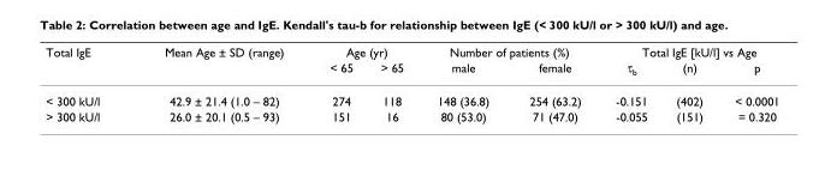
<table><thead><tr><td rowspan="2">Total IgE</td><td rowspan="2">Mean Age ± SD (range)</td><td colspan="2">Age (yr)</td><td colspan="2">Number of patients (%)</td><td colspan="3">Total IgE [kU/l] vs Age</td></tr><tr><td>&lt; 65</td><td>&gt; 65</td><td>male</td><td>female</td><td>τ<sub>b</sub></td><td>(n)</td><td>p</td></tr></thead><tbody><tr><td>&lt; 300 kU/l</td><td>42.9 ± 21.4 (1.0 – 82)</td><td>274</td><td>118</td><td>148 (36.8)</td><td>254 (63.2)</td><td>-0.151</td><td>(402)</td><td>&lt; 0.0001</td></tr><tr><td>&gt; 300 kU/l</td><td>26.0 ± 20.1 (0.5 – 93)</td><td>151</td><td>16</td><td>80 (53.0)</td><td>71 (47.0)</td><td>-0.055</td><td>(151)</td><td>= 0.320</td></tr></tbody></table>